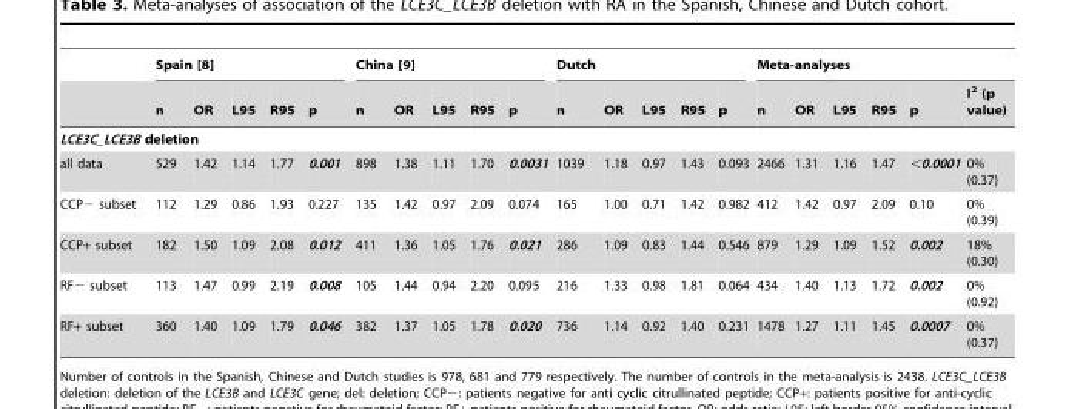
<table><thead><tr><td rowspan="2"></td><td colspan="5">Spain [8]</td><td colspan="5">China [9]</td><td colspan="5">Dutch</td><td colspan="6">Meta-analyses</td></tr><tr><td>n</td><td>OR</td><td>L95</td><td>R95</td><td>p</td><td>n</td><td>OR</td><td>L95</td><td>R95</td><td>p</td><td>n</td><td>OR</td><td>L95</td><td>R95</td><td>p</td><td>n</td><td>OR</td><td>L95</td><td>R95</td><td>p</td><td>I<sup>2</sup> (p value)</td></tr></thead><tbody><tr><td colspan="22">LCE3C_LCE3B deletion</td></tr><tr><td>all data</td><td>529</td><td>1.42</td><td>1.14</td><td>1.77</td><td>0.001</td><td>898</td><td>1.38</td><td>1.11</td><td>1.70</td><td>0.0031</td><td>1039</td><td>1.18</td><td>0.97</td><td>1.43</td><td>0.093</td><td>2466</td><td>1.31</td><td>1.16</td><td>1.47</td><td>&lt;0.0001</td><td>0% (0.37)</td></tr><tr><td>CCP− subset</td><td>112</td><td>1.29</td><td>0.86</td><td>1.93</td><td>0.227</td><td>135</td><td>1.42</td><td>0.97</td><td>2.09</td><td>0.074</td><td>165</td><td>1.00</td><td>0.71</td><td>1.42</td><td>0.982</td><td>412</td><td>1.42</td><td>0.97</td><td>2.09</td><td>0.10</td><td>0% (0.39)</td></tr><tr><td>CCP+ subset</td><td>182</td><td>1.50</td><td>1.09</td><td>2.08</td><td>0.012</td><td>411</td><td>1.36</td><td>1.05</td><td>1.76</td><td>0.021</td><td>286</td><td>1.09</td><td>0.83</td><td>1.44</td><td>0.546</td><td>879</td><td>1.29</td><td>1.09</td><td>1.52</td><td>0.002</td><td>18% (0.30)</td></tr><tr><td>RF− subset</td><td>113</td><td>1.47</td><td>0.99</td><td>2.19</td><td>0.008</td><td>105</td><td>1.44</td><td>0.94</td><td>2.20</td><td>0.095</td><td>216</td><td>1.33</td><td>0.98</td><td>1.81</td><td>0.064</td><td>434</td><td>1.40</td><td>1.13</td><td>1.72</td><td>0.002</td><td>0% (0.92)</td></tr><tr><td>RF+ subset</td><td>360</td><td>1.40</td><td>1.09</td><td>1.79</td><td>0.046</td><td>382</td><td>1.37</td><td>1.05</td><td>1.78</td><td>0.020</td><td>736</td><td>1.14</td><td>0.92</td><td>1.40</td><td>0.231</td><td>1478</td><td>1.27</td><td>1.11</td><td>1.45</td><td>0.0007</td><td>0% (0.37)</td></tr></tbody></table>